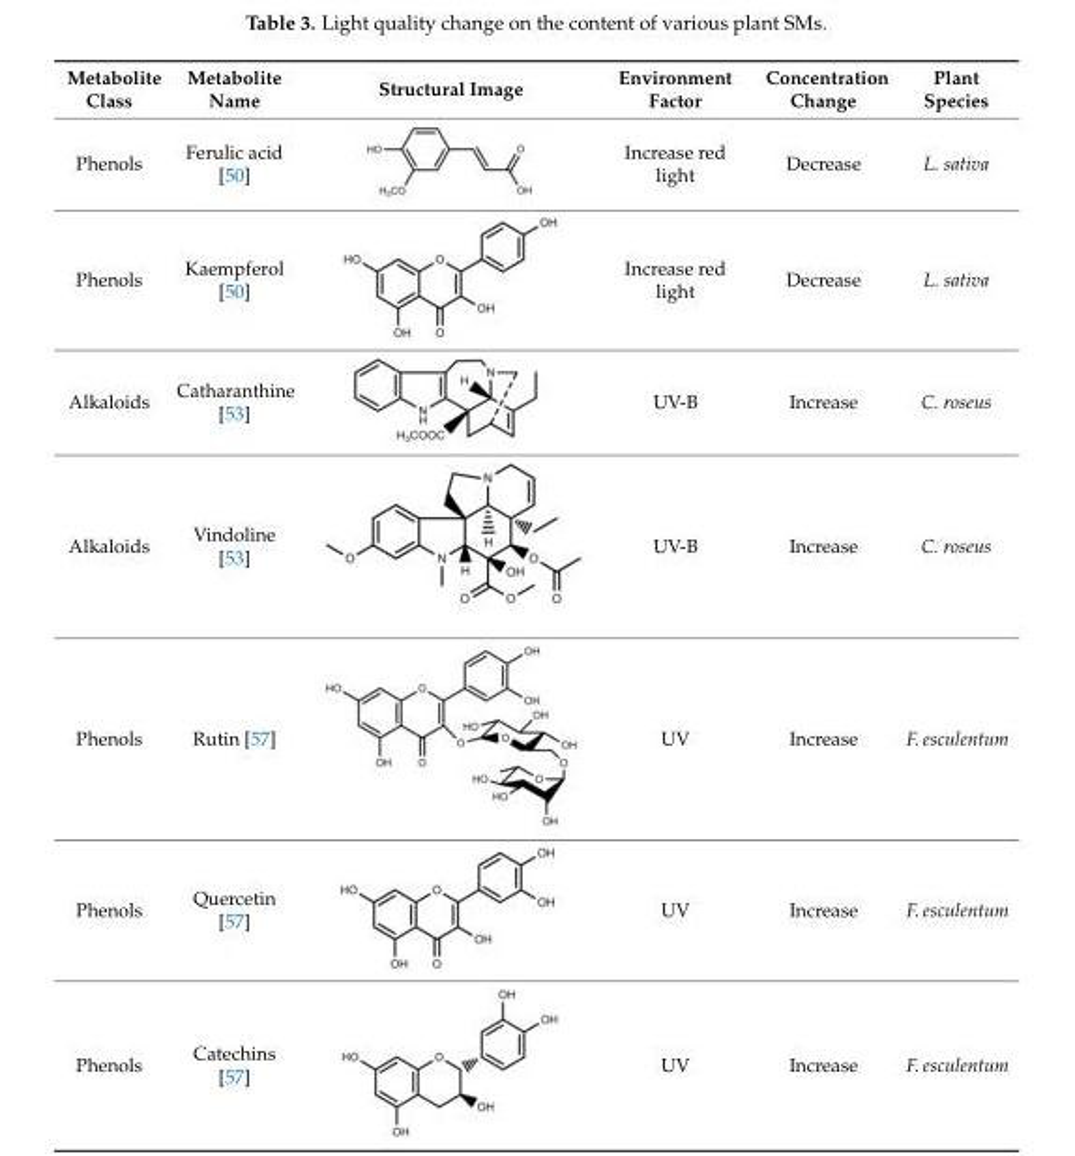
<table><thead><tr><td>Metabolite Class</td><td>Metabolite Name</td><td>Structural Image</td><td>Environment Factor</td><td>Concentration Change</td><td>Plant Species</td></tr></thead><tbody><tr><td>Phenols</td><td>Ferulic acid [50]</td><td></td><td>Increase red light</td><td>Decrease</td><td>L. sativa</td></tr><tr><td>Phenols</td><td>Kaempferol [50]</td><td></td><td>Increase red light</td><td>Decrease</td><td>L. sativa</td></tr><tr><td>Alkaloids</td><td>Catharanthine [53]</td><td></td><td>UV-B</td><td>Increase</td><td>C. roseus</td></tr><tr><td>Alkaloids</td><td>Vindoline [53]</td><td></td><td>UV-B</td><td>Increase</td><td>C. roseus</td></tr><tr><td>Phenols</td><td>Rutin [57]</td><td></td><td>UV</td><td>Increase</td><td>F. esculentum</td></tr><tr><td>Phenols</td><td>Quercetin [57]</td><td></td><td>UV</td><td>Increase</td><td>F. esculentum</td></tr><tr><td>Phenols</td><td>Catechins [57]</td><td></td><td>UV</td><td>Increase</td><td>F. esculentum</td></tr></tbody></table>